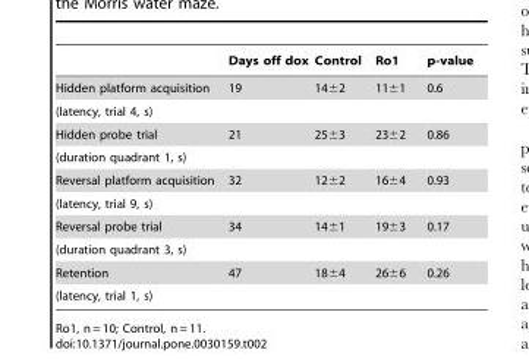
<table><thead><tr><td></td><td>Days off dox</td><td>Control</td><td>Ro1</td><td>p-value</td></tr></thead><tbody><tr><td>Hidden platform acquisition</td><td>19</td><td>14±2</td><td>11±1</td><td>0.6</td></tr><tr><td colspan="5">(latency, trial 4, s)</td></tr><tr><td>Hidden probe trial</td><td>21</td><td>25±3</td><td>23±2</td><td>0.86</td></tr><tr><td colspan="5">(duration quadrant 1, s)</td></tr><tr><td>Reversal platform acquisition</td><td>32</td><td>12±2</td><td>16±4</td><td>0.93</td></tr><tr><td colspan="5">(latency, trial 9, s)</td></tr><tr><td>Reversal probe trial</td><td>34</td><td>14±1</td><td>19±3</td><td>0.17</td></tr><tr><td colspan="5">(duration quadrant 3, s)</td></tr><tr><td>Retention</td><td>47</td><td>18±4</td><td>26±6</td><td>0.26</td></tr><tr><td>(latency, trial 1, s)</td><td></td><td></td><td></td><td></td></tr></tbody></table>